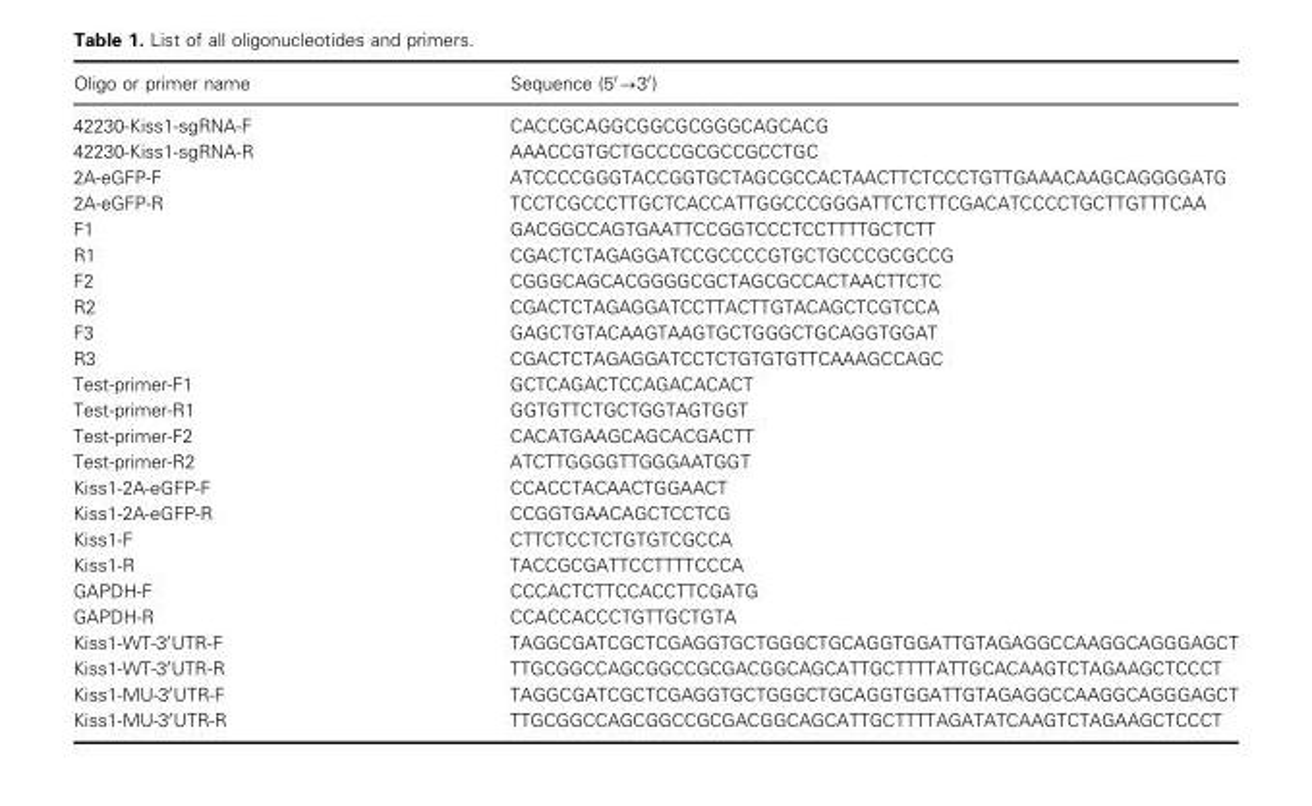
<table><thead><tr><td>Oligo or primer name</td><td>Sequence (5′→3′)</td></tr></thead><tbody><tr><td>42230-Kiss1-sgRNA-F</td><td>CACCGCAGGCGGCGCGGGCAGCACG</td></tr><tr><td>42230-Kiss1-sgRNA-R</td><td>AAACCGTGCTGCCCGCGCCGCCTGC</td></tr><tr><td>2A-eGFP-F</td><td>ATCCCCGGGTACCGGTGCTAGCGCCACTAACTTCTCCCTGTTGAAACAAGCAGGGGATG</td></tr><tr><td>2A-eGFP-R</td><td>TCCTCGCCCTTGCTCACCATTGGCCCGGGATTCTCTTCGACATCCCCTGCTTGTTTCAA</td></tr><tr><td>F1</td><td>GACGGCCAGTGAATTCCGGTCCCTCCTTTTGCTCTT</td></tr><tr><td>R1</td><td>CGACTCTAGAGGATCCGCCCCGTGCTGCCCGCGCCG</td></tr><tr><td>F2</td><td>CGGGCAGCACGGGGCGCTAGCGCCACTAACTTCTC</td></tr><tr><td>R2</td><td>CGACTCTAGAGGATCCTTACTTGTACAGCTCGTCCA</td></tr><tr><td>F3</td><td>GAGCTGTACAAGTAAGTGCTGGGCTGCAGGTGGAT</td></tr><tr><td>R3</td><td>CGACTCTAGAGGATCCTCTGTGTGTTCAAAGCCAGC</td></tr><tr><td>Test-primer-F1</td><td>GCTCAGACTCCAGACACACT</td></tr><tr><td>Test-primer-R1</td><td>GGTGTTCTGCTGGTAGTGGT</td></tr><tr><td>Test-primer-F2</td><td>CACATGAAGCAGCACGACTT</td></tr><tr><td>Test-primer-R2</td><td>ATCTTGGGGTTGGGAATGGT</td></tr><tr><td>Kiss1-2A-eGFP-F</td><td>CCACCTACAACTGGAACT</td></tr><tr><td>Kiss1-2A-eGFP-R</td><td>CCGGTGAACAGCTCCTCG</td></tr><tr><td>Kiss1-F</td><td>CTTCTCCTCTGTGTCGCCA</td></tr><tr><td>Kiss1-R</td><td>TACCGCGATTCCTTTTCCCA</td></tr><tr><td>GAPDH-F</td><td>CCCACTCTTCCACCTTCGATG</td></tr><tr><td>GAPDH-R</td><td>CCACCACCCTGTTGCTGTA</td></tr><tr><td>Kiss1-WT-3′UTR-F</td><td>TAGGCGATCGCTCGAGGTGCTGGGCTGCAGGTGGATTGTAGAGGCCAAGGCAGGGAGCT</td></tr><tr><td>Kiss1-WT-3′UTR-R</td><td>TTGCGGCCAGCGGCCGCGACGGCAGCATTGCTTTTATTGCACAAGTCTAGAAGCTCCCT</td></tr><tr><td>Kiss1-MU-3′UTR-F</td><td>TAGGCGATCGCTCGAGGTGCTGGGCTGCAGGTGGATTGTAGAGGCCAAGGCAGGGAGCT</td></tr><tr><td>Kiss1-MU-3′UTR-R</td><td>TTGCGGCCAGCGGCCGCGACGGCAGCATTGCTTTTAGATATCAAGTCTAGAAGCTCCCT</td></tr></tbody></table>